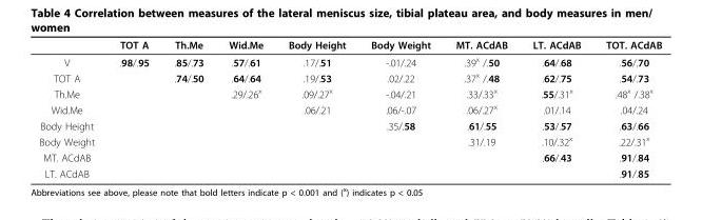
<table><thead><tr><td></td><td>TOT A</td><td>Th.Me</td><td>Wid.Me</td><td>Body Height</td><td>Body Weight</td><td>MT. ACdAB</td><td>LT. ACdAB</td><td>TOT. ACdAB</td></tr></thead><tbody><tr><td>V</td><td>.98/.95</td><td>.85/.73</td><td>.57/.61</td><td>.17/.51</td><td>-.01/.24</td><td>.39<sup>x</sup> /.50</td><td>.64/.68</td><td>.56/.70</td></tr><tr><td>TOT A</td><td></td><td>.74/.50</td><td>.64/.64</td><td>.19/.53</td><td>.02/.22</td><td>.37<sup>x</sup> /.48</td><td>.62/.75</td><td>.54/.73</td></tr><tr><td>Th.Me</td><td></td><td></td><td>.29/.26<sup>x</sup></td><td>.09/.27<sup>x</sup></td><td>-.04/.21</td><td>.33/.33<sup>x</sup></td><td>.55/.31<sup>x</sup></td><td>.48<sup>x</sup> /.38<sup>x</sup></td></tr><tr><td>Wid.Me</td><td></td><td></td><td></td><td>.06/.21</td><td>.06/-.07</td><td>.06/.27<sup>x</sup></td><td>.01/.14</td><td>.04/.24</td></tr><tr><td>Body Height</td><td></td><td></td><td></td><td></td><td>.35/.58</td><td>.61/.55</td><td>.53/.57</td><td>.63/.66</td></tr><tr><td>Body Weight</td><td></td><td></td><td></td><td></td><td></td><td>.31/.19</td><td>.10/.32<sup>x</sup></td><td>.22/.31<sup>x</sup></td></tr><tr><td>MT. ACdAB</td><td></td><td></td><td></td><td></td><td></td><td></td><td>.66/.43</td><td>.91/.84</td></tr><tr><td>LT. ACdAB</td><td></td><td></td><td></td><td></td><td></td><td></td><td></td><td>.91/.85</td></tr></tbody></table>